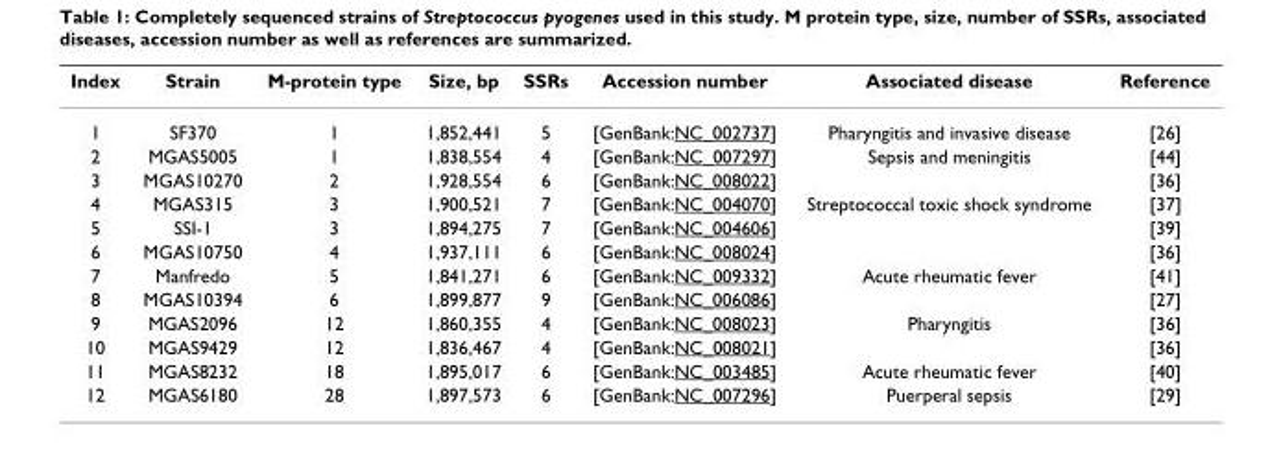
<table><thead><tr><td>Index</td><td>Strain</td><td>M-protein type</td><td>Size, bp</td><td>SSRs</td><td>Accession number</td><td>Associated disease</td><td>Reference</td></tr></thead><tbody><tr><td>1</td><td>SF370</td><td>1</td><td>1,852,441</td><td>5</td><td>[GenBank:NC_002737]</td><td>Pharyngitis and invasive disease</td><td>[26]</td></tr><tr><td>2</td><td>MGAS5005</td><td>1</td><td>1,838,554</td><td>4</td><td>[GenBank:NC_007297]</td><td>Sepsis and meningitis</td><td>[44]</td></tr><tr><td>3</td><td>MGAS10270</td><td>2</td><td>1,928,554</td><td>6</td><td>[GenBank:NC_008022]</td><td></td><td>[36]</td></tr><tr><td>4</td><td>MGAS315</td><td>3</td><td>1,900,521</td><td>7</td><td>[GenBank:NC_004070]</td><td>Streptococcal toxic shock syndrome</td><td>[37]</td></tr><tr><td>5</td><td>SSI-1</td><td>3</td><td>1,894,275</td><td>7</td><td>[GenBank:NC_004606]</td><td></td><td>[39]</td></tr><tr><td>6</td><td>MGAS10750</td><td>4</td><td>1,937,111</td><td>6</td><td>[GenBank:NC_008024]</td><td></td><td>[36]</td></tr><tr><td>7</td><td>Manfredo</td><td>5</td><td>1,841,271</td><td>6</td><td>[GenBank:NC_009332]</td><td>Acute rheumatic fever</td><td>[41]</td></tr><tr><td>8</td><td>MGAS10394</td><td>6</td><td>1,899,877</td><td>9</td><td>[GenBank:NC_006086]</td><td></td><td>[27]</td></tr><tr><td>9</td><td>MGAS2096</td><td>12</td><td>1,860,355</td><td>4</td><td>[GenBank:NC_008023]</td><td>Pharyngitis</td><td>[36]</td></tr><tr><td>10</td><td>MGAS9429</td><td>12</td><td>1,836,467</td><td>4</td><td>[GenBank:NC_008021]</td><td></td><td>[36]</td></tr><tr><td>11</td><td>MGAS8232</td><td>18</td><td>1,895,017</td><td>6</td><td>[GenBank:NC_003485]</td><td>Acute rheumatic fever</td><td>[40]</td></tr><tr><td>12</td><td>MGAS6180</td><td>28</td><td>1,897,573</td><td>6</td><td>[GenBank:NC_007296]</td><td>Puerperal sepsis</td><td>[29]</td></tr></tbody></table>